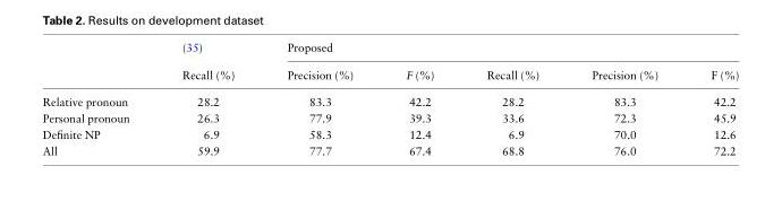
<table><thead><tr><td rowspan="2"></td><td rowspan="2">(35) Recall (%)</td><td colspan="5">Proposed</td></tr><tr><td>Precision (%)</td><td>F (%)</td><td>Recall (%)</td><td>Precision (%)</td><td>F (%)</td></tr></thead><tbody><tr><td>Relative pronoun</td><td>28.2</td><td>83.3</td><td>42.2</td><td>28.2</td><td>83.3</td><td>42.2</td></tr><tr><td>Personal pronoun</td><td>26.3</td><td>77.9</td><td>39.3</td><td>33.6</td><td>72.3</td><td>45.9</td></tr><tr><td>Definite NP</td><td>6.9</td><td>58.3</td><td>12.4</td><td>6.9</td><td>70.0</td><td>12.6</td></tr><tr><td>All</td><td>59.9</td><td>77.7</td><td>67.4</td><td>68.8</td><td>76.0</td><td>72.2</td></tr></tbody></table>